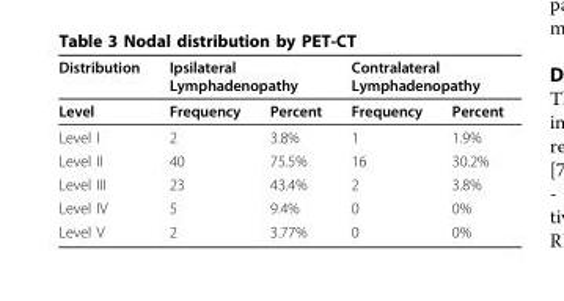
<table><thead><tr><td rowspan="2">Distribution Level</td><td colspan="2">Ipsilateral Lymphadenopathy</td><td colspan="2">Contralateral Lymphadenopathy</td></tr><tr><td>Frequency</td><td>Percent</td><td>Frequency</td><td>Percent</td></tr></thead><tbody><tr><td>Level I</td><td>2</td><td>3.8%</td><td>1</td><td>1.9%</td></tr><tr><td>Level II</td><td>40</td><td>75.5%</td><td>16</td><td>30.2%</td></tr><tr><td>Level III</td><td>23</td><td>43.4%</td><td>2</td><td>3.8%</td></tr><tr><td>Level IV</td><td>5</td><td>9.4%</td><td>0</td><td>0%</td></tr><tr><td>Level V</td><td>2</td><td>3.77%</td><td>0</td><td>0%</td></tr></tbody></table>